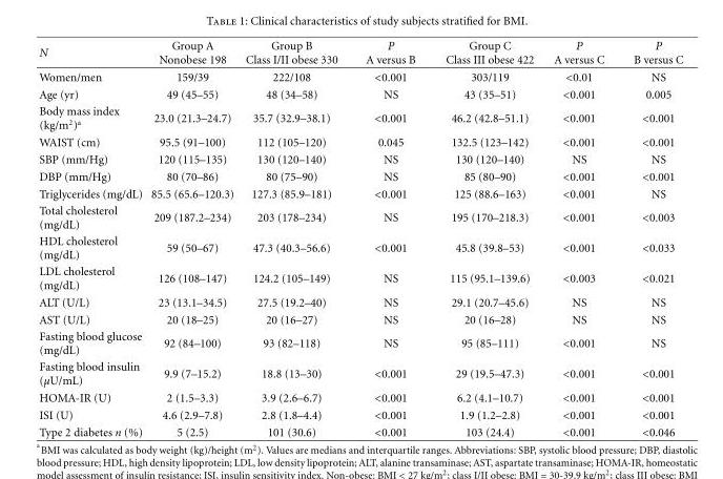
<table><thead><tr><td>N</td><td>Group A Nonobese 198</td><td>Group B Class I/II obese 330</td><td>P A versus B</td><td>Group C Class III obese 422</td><td>P A versus C</td><td>P B versus C</td></tr></thead><tbody><tr><td>Women/men</td><td>159/39</td><td>222/108</td><td>&lt;0.001</td><td>303/119</td><td>&lt;0.01</td><td>NS</td></tr><tr><td>Age (yr)</td><td>49 (45–55)</td><td>48 (34–58)</td><td>NS</td><td>43 (35–51)</td><td>&lt;0.001</td><td>0.005</td></tr><tr><td>Body mass index (kg/m<sup>2</sup>)<sup>a</sup></td><td>23.0 (21.3–24.7)</td><td>35.7 (32.9–38.1)</td><td>&lt;0.001</td><td>46.2 (42.8–51.1)</td><td>&lt;0.001</td><td>&lt;0.001</td></tr><tr><td>WAIST (cm)</td><td>95.5 (91–100)</td><td>112 (105–120)</td><td>0.045</td><td>132.5 (123–142)</td><td>&lt;0.001</td><td>&lt;0.001</td></tr><tr><td>SBP (mm/Hg)</td><td>120 (115–135)</td><td>130 (120–140)</td><td>NS</td><td>130 (120–140)</td><td>NS</td><td>NS</td></tr><tr><td>DBP (mm/Hg)</td><td>80 (70–86)</td><td>80 (75–90)</td><td>NS</td><td>85 (80–90)</td><td>&lt;0.001</td><td>&lt;0.001</td></tr><tr><td>Triglycerides (mg/dL)</td><td>85.5 (65.6–120.3)</td><td>127.3 (85.9–181)</td><td>&lt;0.001</td><td>125 (88.6–163)</td><td>&lt;0.001</td><td>NS</td></tr><tr><td>Total cholesterol (mg/dL)</td><td>209 (187.2–234)</td><td>203 (178–234)</td><td>NS</td><td>195 (170–218.3)</td><td>&lt;0.001</td><td>&lt;0.003</td></tr><tr><td>HDL cholesterol (mg/dL)</td><td>59 (50–67)</td><td>47.3 (40.3–56.6)</td><td>&lt;0.001</td><td>45.8 (39.8–53)</td><td>&lt;0.001</td><td>&lt;0.033</td></tr><tr><td>LDL cholesterol (mg/dL)</td><td>126 (108–147)</td><td>124.2 (105–149)</td><td>NS</td><td>115 (95.1–139.6)</td><td>&lt;0.003</td><td>&lt;0.021</td></tr><tr><td>ALT (U/L)</td><td>23 (13.1–34.5)</td><td>27.5 (19.2–40)</td><td>NS</td><td>29.1 (20.7–45.6)</td><td>NS</td><td>NS</td></tr><tr><td>AST (U/L)</td><td>20 (18–25)</td><td>20 (16–27)</td><td>NS</td><td>20 (16–28)</td><td>NS</td><td>NS</td></tr><tr><td>Fasting blood glucose (mg/dL)</td><td>92 (84–100)</td><td>93 (82–118)</td><td>NS</td><td>95 (85–111)</td><td>&lt;0.001</td><td>NS</td></tr><tr><td>Fasting blood insulin (μU/mL)</td><td>9.9 (7–15.2)</td><td>18.8 (13–30)</td><td>&lt;0.001</td><td>29 (19.5–47.3)</td><td>&lt;0.001</td><td>&lt;0.001</td></tr><tr><td>HOMA-IR (U)</td><td>2 (1.5–3.3)</td><td>3.9 (2.6–6.7)</td><td>&lt;0.001</td><td>6.2 (4.1–10.7)</td><td>&lt;0.001</td><td>&lt;0.001</td></tr><tr><td>ISI (U)</td><td>4.6 (2.9–7.8)</td><td>2.8 (1.8–4.4)</td><td>&lt;0.001</td><td>1.9 (1.2–2.8)</td><td>&lt;0.001</td><td>&lt;0.001</td></tr><tr><td>Type 2 diabetes n (%)</td><td>5 (2.5)</td><td>101 (30.6)</td><td>&lt;0.001</td><td>103 (24.4)</td><td>&lt;0.001</td><td>&lt;0.046</td></tr></tbody></table>